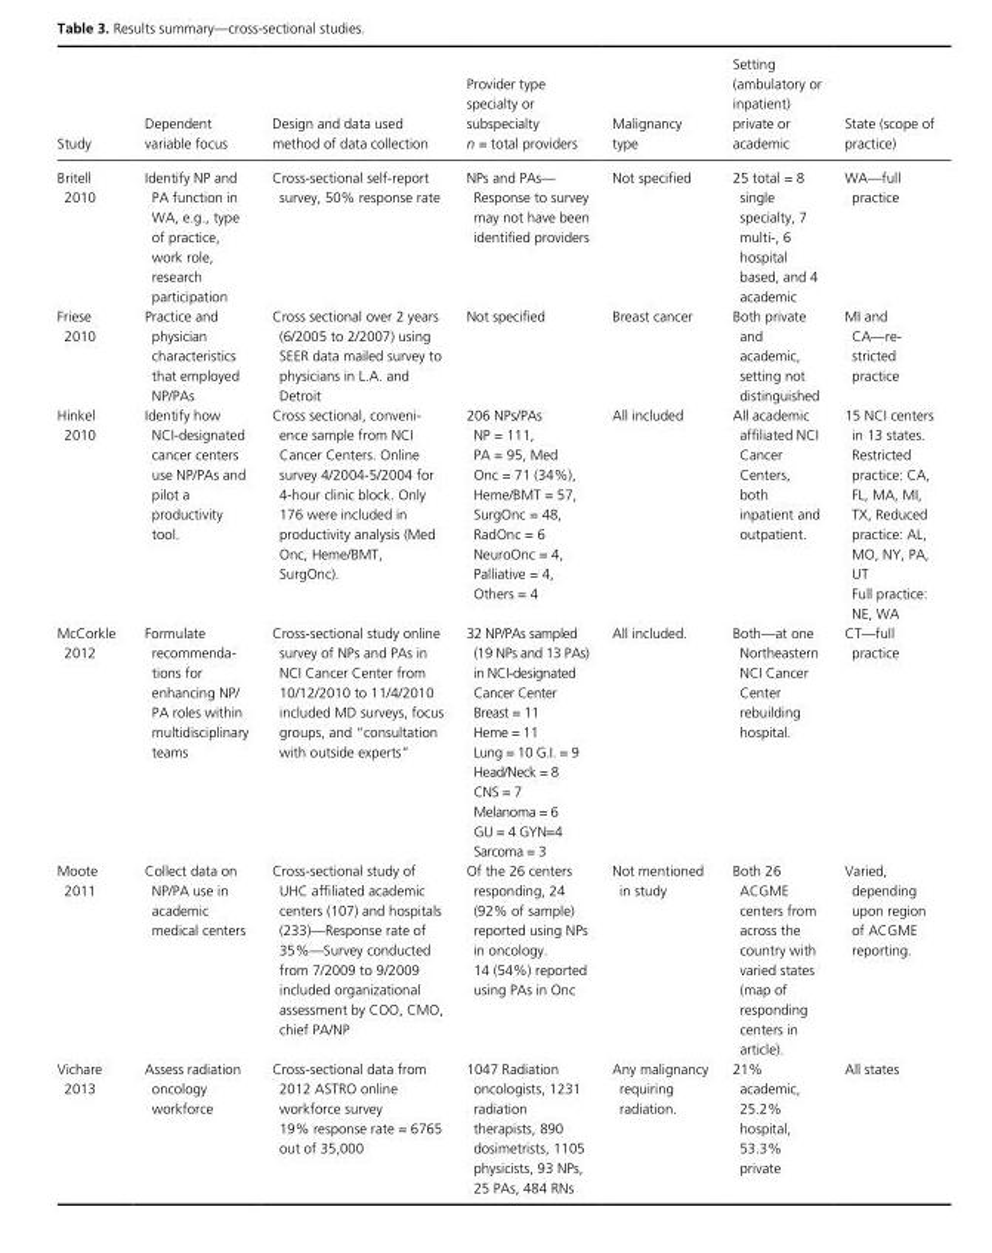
<table><thead><tr><td>Study</td><td>Dependent variable focus</td><td>Design and data used method of data collection</td><td>Provider type specialty or subspecialty n = total providers</td><td>Malignancy type</td><td>Setting (ambulatory or inpatient) private or academic</td><td>State (scope of practice)</td></tr></thead><tbody><tr><td>Britell 2010</td><td>Identify NP and PA function in WA, e.g., type of practice, work role, research participation</td><td>Cross- sectional self- report survey, 50% response rate</td><td>NPs and PAs— Response to survey may not have been identified providers</td><td>Not specified</td><td>25 total = 8 single specialty, 7 multi- , 6 hospital based, and 4 academic</td><td>WA—full practice</td></tr><tr><td>Friese 2010</td><td>Practice and physician characteristics that employed NP/PAs</td><td>Cross sectional over 2 years (6/2005 to 2/2007) using SEER data mailed survey to physicians in L.A. and Detroit</td><td>Not specified</td><td>Breast cancer</td><td>Both private and academic, setting not distinguished</td><td>MI and CA—re- stricted practice</td></tr><tr><td>Hinkel 2010</td><td>Identify how NCI- designated cancer centers use NP/PAs and pilot a productivity tool.</td><td>Cross sectional, conveni- ence sample from NCI Cancer Centers. Online survey 4/2004- 5/2004 for 4- hour clinic block. Only 176 were included in productivity analysis (Med Onc, Heme/BMT, SurgOnc).</td><td>206 NPs/PAs NP = 111, PA = 95, Med Onc = 71 (34%), Heme/BMT = 57, SurgOnc = 48, RadOnc = 6 NeuroOnc = 4, Palliative = 4, Others = 4</td><td>All included</td><td>All academic affiliated NCI Cancer Centers, both inpatient and outpatient.</td><td>15 NCI centers in 13 states. Restricted practice: CA, FL, MA, MI, TX, Reduced practice: AL, MO, NY, PA, UT Full practice: NE, WA</td></tr><tr><td>McCorkle 2012</td><td>Formulate recommenda- tions for enhancing NP/ PA roles within multidisciplinary teams</td><td>Cross- sectional study online survey of NPs and PAs in NCI Cancer Center from 10/12/2010 to 11/4/2010 included MD surveys, focus groups, and “consultation with outside experts”</td><td>32 NP/PAs sampled (19 NPs and 13 PAs) in NCI- designated Cancer Center Breast = 11 Heme = 11 Lung = 10 G.I. = 9 Head/Neck = 8 CNS = 7 Melanoma = 6 GU = 4 GYN=4 Sarcoma = 3</td><td>All included.</td><td>Both—at one Northeastern NCI Cancer Center rebuilding hospital.</td><td>CT—full practice</td></tr><tr><td>Moote 2011</td><td>Collect data on NP/PA use in academic medical centers</td><td>Cross- sectional study of UHC affiliated academic centers (107) and hospitals (233)—Response rate of 35%—Survey conducted from 7/2009 to 9/2009 included organizational assessment by COO, CMO, chief PA/NP</td><td>Of the 26 centers responding, 24 (92% of sample) reported using NPs in oncology. 14 (54%) reported using PAs in Onc</td><td>Not mentioned in study</td><td>Both 26 ACGME centers from across the country with varied states (map of responding centers in article).</td><td>Varied, depending upon region of ACGME reporting.</td></tr><tr><td>Vichare 2013</td><td>Assess radiation oncology workforce</td><td>Cross- sectional data from 2012 ASTRO online workforce survey 19% response rate = 6765 out of 35,000</td><td>1047 Radiation oncologists, 1231 radiation therapists, 890 dosimetrists, 1105 physicists, 93 NPs, 25 PAs, 484 RNs</td><td>Any malignancy requiring radiation.</td><td>21% academic, 25.2% hospital, 53.3% private</td><td>All states</td></tr></tbody></table>